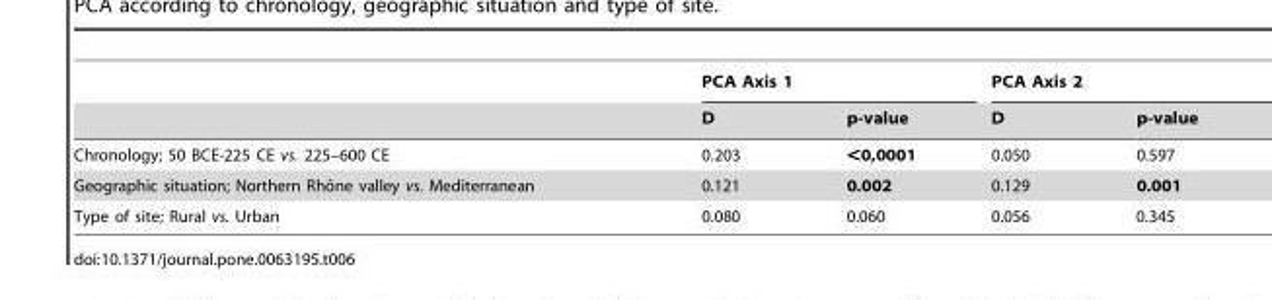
<table><thead><tr><td rowspan="2"></td><td colspan="2">PCA Axis 1</td><td colspan="2">PCA Axis 2</td></tr><tr><td>D</td><td>p-value</td><td>D</td><td>p-value</td></tr></thead><tbody><tr><td>Chronology; 50 BCE-225 CE vs. 225–600 CE</td><td>0.203</td><td>&lt;0,0001</td><td>0.050</td><td>0.597</td></tr><tr><td>Geographic situation; Northern Rhoˆne valley vs. Mediterranean</td><td>0.121</td><td>0.002</td><td>0.129</td><td>0.001</td></tr><tr><td>Type of site; Rural vs. Urban</td><td>0.080</td><td>0.060</td><td>0.056</td><td>0.345</td></tr></tbody></table>